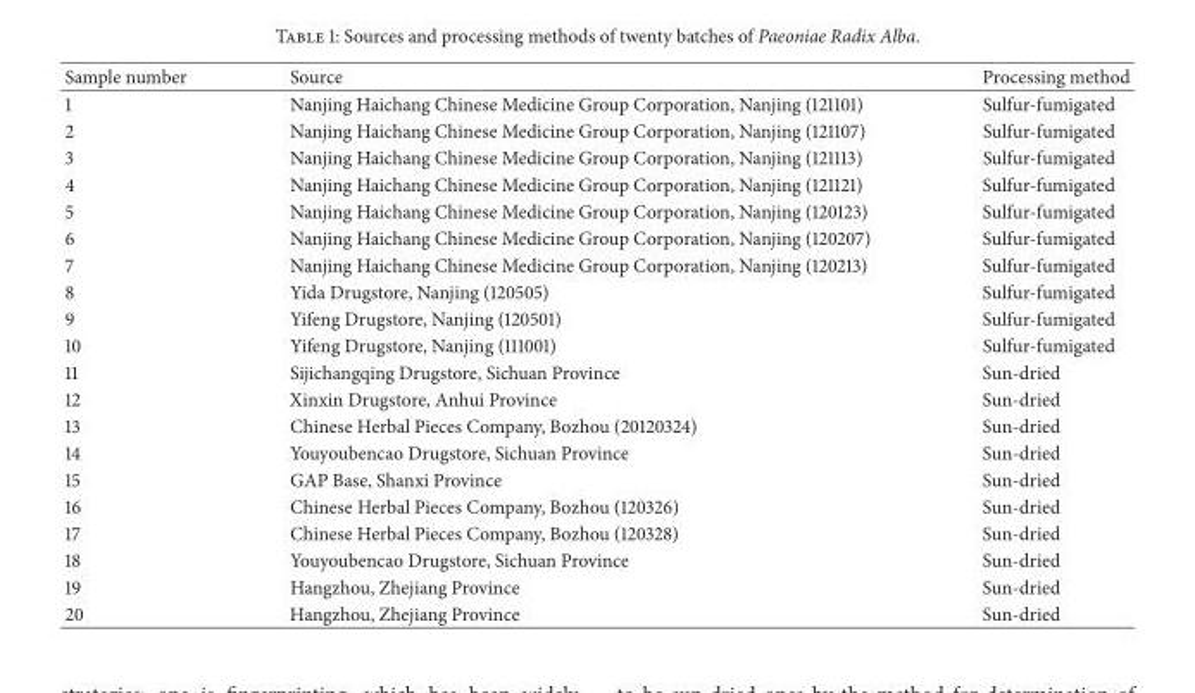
<table><thead><tr><td>Sample number</td><td>Source</td><td>Processing method</td></tr></thead><tbody><tr><td>1</td><td>Nanjing Haichang Chinese Medicine Group Corporation, Nanjing (121101)</td><td>Sulfur-fumigated</td></tr><tr><td>2</td><td>Nanjing Haichang Chinese Medicine Group Corporation, Nanjing (121107)</td><td>Sulfur-fumigated</td></tr><tr><td>3</td><td>Nanjing Haichang Chinese Medicine Group Corporation, Nanjing (121113)</td><td>Sulfur-fumigated</td></tr><tr><td>4</td><td>Nanjing Haichang Chinese Medicine Group Corporation, Nanjing (121121)</td><td>Sulfur-fumigated</td></tr><tr><td>5</td><td>Nanjing Haichang Chinese Medicine Group Corporation, Nanjing (120123)</td><td>Sulfur-fumigated</td></tr><tr><td>6</td><td>Nanjing Haichang Chinese Medicine Group Corporation, Nanjing (120207)</td><td>Sulfur-fumigated</td></tr><tr><td>7</td><td>Nanjing Haichang Chinese Medicine Group Corporation, Nanjing (120213)</td><td>Sulfur-fumigated</td></tr><tr><td>8</td><td>Yida Drugstore, Nanjing (120505)</td><td>Sulfur-fumigated</td></tr><tr><td>9</td><td>Yifeng Drugstore, Nanjing (120501)</td><td>Sulfur-fumigated</td></tr><tr><td>10</td><td>Yifeng Drugstore, Nanjing (111001)</td><td>Sulfur-fumigated</td></tr><tr><td>11</td><td>Sijichangqing Drugstore, Sichuan Province</td><td>Sun-dried</td></tr><tr><td>12</td><td>Xinxin Drugstore, Anhui Province</td><td>Sun-dried</td></tr><tr><td>13</td><td>Chinese Herbal Pieces Company, Bozhou (20120324)</td><td>Sun-dried</td></tr><tr><td>14</td><td>Youyoubencao Drugstore, Sichuan Province</td><td>Sun-dried</td></tr><tr><td>15</td><td>GAP Base, Shanxi Province</td><td>Sun-dried</td></tr><tr><td>16</td><td>Chinese Herbal Pieces Company, Bozhou (120326)</td><td>Sun-dried</td></tr><tr><td>17</td><td>Chinese Herbal Pieces Company, Bozhou (120328)</td><td>Sun-dried</td></tr><tr><td>18</td><td>Youyoubencao Drugstore, Sichuan Province</td><td>Sun-dried</td></tr><tr><td>19</td><td>Hangzhou, Zhejiang Province</td><td>Sun-dried</td></tr><tr><td>20</td><td>Hangzhou, Zhejiang Province</td><td>Sun-dried</td></tr></tbody></table>